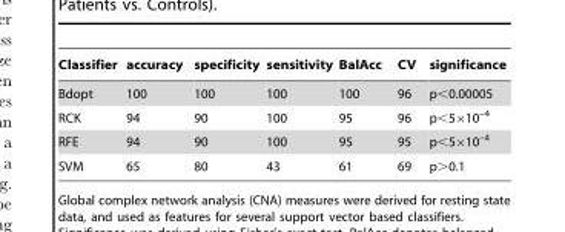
<table><thead><tr><td>Classifier</td><td>accuracy</td><td>specificity</td><td>sensitivity</td><td>BalAcc</td><td>CV</td><td>significance</td></tr></thead><tbody><tr><td>Bdopt</td><td>100</td><td>100</td><td>100</td><td>100</td><td>96</td><td>p&lt;0.00005</td></tr><tr><td>RCK</td><td>94</td><td>90</td><td>100</td><td>95</td><td>96</td><td>p&lt;5×10<sup>–4</sup></td></tr><tr><td>RFE</td><td>94</td><td>90</td><td>100</td><td>95</td><td>95</td><td>p&lt;5×10<sup>–4</sup></td></tr><tr><td>SVM</td><td>65</td><td>80</td><td>43</td><td>61</td><td>69</td><td>p&gt;0.1</td></tr></tbody></table>